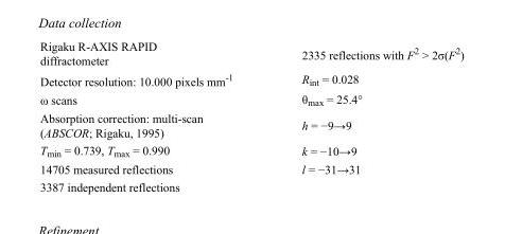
<table><tbody><tr><td>Rigaku R-AXIS RAPID diffractometer</td><td>2335 reflections with F<sup>2</sup> &gt; 2σ(F<sup>2</sup>)</td></tr><tr><td>Detector resolution: 10.000 pixels mm<sup>-1</sup></td><td>R<sub>int</sub> = 0.028</td></tr><tr><td>ω scans</td><td>θ<sub>max</sub> = 25.4°</td></tr><tr><td>Absorption correction: multi-scan (ABSCOR; Rigaku, 1995)</td><td>h = −9→9</td></tr><tr><td>T<sub>min</sub> = 0.739, T<sub>max</sub> = 0.990</td><td>k = −10→9</td></tr><tr><td>14705 measured reflections</td><td>l = −31→31</td></tr><tr><td>3387 independent reflections</td><td></td></tr></tbody></table>